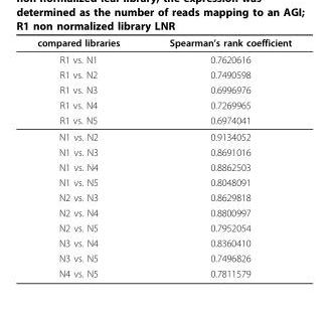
<table><thead><tr><td>compared libraries</td><td>Spearman’s rank coefficient</td></tr></thead><tbody><tr><td>R1 vs. N1</td><td>0.7620616</td></tr><tr><td>R1 vs. N2</td><td>0.7490598</td></tr><tr><td>R1 vs. N3</td><td>0.6996976</td></tr><tr><td>R1 vs. N4</td><td>0.7269965</td></tr><tr><td>R1 vs. N5</td><td>0.6974041</td></tr><tr><td>N1 vs. N2</td><td>0.9134052</td></tr><tr><td>N1 vs. N3</td><td>0.8691016</td></tr><tr><td>N1 vs. N4</td><td>0.8862503</td></tr><tr><td>N1 vs. N5</td><td>0.8048091</td></tr><tr><td>N2 vs. N3</td><td>0.8629818</td></tr><tr><td>N2 vs. N4</td><td>0.8800997</td></tr><tr><td>N2 vs. N5</td><td>0.7952054</td></tr><tr><td>N3 vs. N4</td><td>0.8360410</td></tr><tr><td>N3 vs. N5</td><td>0.7496826</td></tr><tr><td>N4 vs. N5</td><td>0.7811579</td></tr></tbody></table>